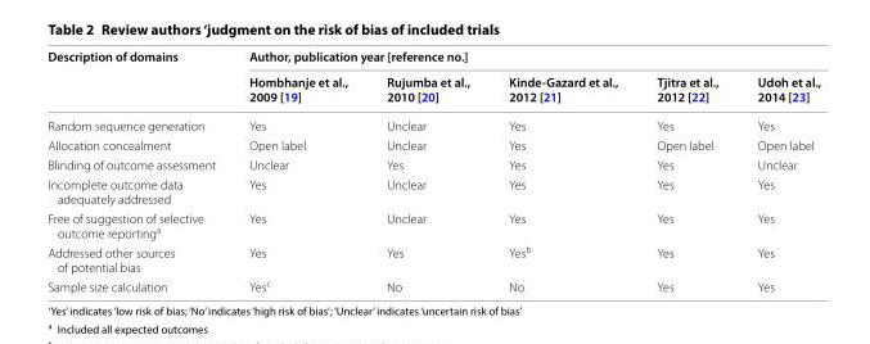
<table><thead><tr><td rowspan="2">Description of domains</td><td colspan="5">Author, publication year [reference no.]</td></tr><tr><td>Hombhanje et al., 2009 [19]</td><td>Rujumba et al., 2010 [20]</td><td>Kinde-Gazard et al., 2012 [21]</td><td>Tjitra et al., 2012 [22]</td><td>Udoh et al., 2014 [23]</td></tr></thead><tbody><tr><td>Random sequence generation</td><td>Yes</td><td>Unclear</td><td>Yes</td><td>Yes</td><td>Yes</td></tr><tr><td>Allocation concealment</td><td>Open label</td><td>Unclear</td><td>Yes</td><td>Open label</td><td>Open label</td></tr><tr><td>Blinding of outcome assessment</td><td>Unclear</td><td>Yes</td><td>Yes</td><td>Yes</td><td>Unclear</td></tr><tr><td>Incomplete outcome data adequately addressed</td><td>Yes</td><td>Unclear</td><td>Yes</td><td>Yes</td><td>Yes</td></tr><tr><td>Free of suggestion of selective outcome reporting<sup>a</sup></td><td>Yes</td><td>Unclear</td><td>Yes</td><td>Yes</td><td>Yes</td></tr><tr><td>Addressed other sources of potential bias</td><td>Yes</td><td>Yes</td><td>Yes<sup>b</sup></td><td>Yes</td><td>Yes</td></tr><tr><td>Sample size calculation</td><td>Yes<sup>c</sup></td><td>No</td><td>No</td><td>Yes</td><td>Yes</td></tr></tbody></table>